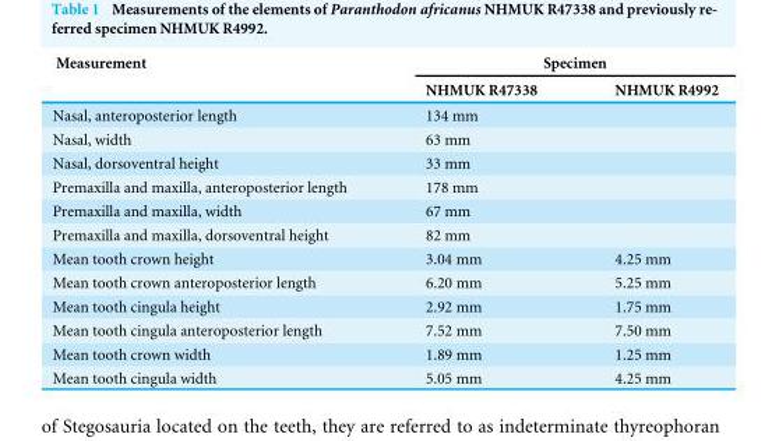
<table><thead><tr><td rowspan="2">Measurement</td><td colspan="2">Specimen</td></tr><tr><td>NHMUK R47338</td><td>NHMUK R4992</td></tr></thead><tbody><tr><td>Nasal, anteroposterior length</td><td>134 mm</td><td></td></tr><tr><td>Nasal, width</td><td>63 mm</td><td></td></tr><tr><td>Nasal, dorsoventral height</td><td>33 mm</td><td></td></tr><tr><td>Premaxilla and maxilla, anteroposterior length</td><td>178 mm</td><td></td></tr><tr><td>Premaxilla and maxilla, width</td><td>67 mm</td><td></td></tr><tr><td>Premaxilla and maxilla, dorsoventral height</td><td>82 mm</td><td></td></tr><tr><td>Mean tooth crown height</td><td>3.04 mm</td><td>4.25 mm</td></tr><tr><td>Mean tooth crown anteroposterior length</td><td>6.20 mm</td><td>5.25 mm</td></tr><tr><td>Mean tooth cingula height</td><td>2.92 mm</td><td>1.75 mm</td></tr><tr><td>Mean tooth cingula anteroposterior length</td><td>7.52 mm</td><td>7.50 mm</td></tr><tr><td>Mean tooth crown width</td><td>1.89 mm</td><td>1.25 mm</td></tr><tr><td>Mean tooth cingula width</td><td>5.05 mm</td><td>4.25 mm</td></tr></tbody></table>